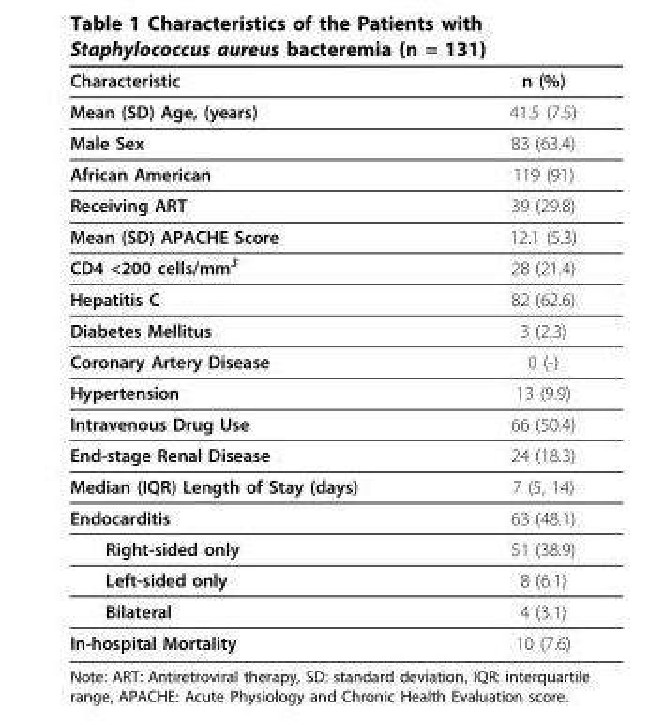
<table><thead><tr><td>Characteristic</td><td>n (%)</td></tr></thead><tbody><tr><td>Mean (SD) Age, (years)</td><td>41.5 (7.5)</td></tr><tr><td>Male Sex</td><td>83 (63.4)</td></tr><tr><td>African American</td><td>119 (91)</td></tr><tr><td>Receiving ART</td><td>39 (29.8)</td></tr><tr><td>Mean (SD) APACHE Score</td><td>12.1 (5.3)</td></tr><tr><td>CD4 &lt;200 cells/mm<sup>3</sup></td><td>28 (21.4)</td></tr><tr><td>Hepatitis C</td><td>82 (62.6)</td></tr><tr><td>Diabetes Mellitus</td><td>3 (2.3)</td></tr><tr><td>Coronary Artery Disease</td><td>0 (-)</td></tr><tr><td>Hypertension</td><td>13 (9.9)</td></tr><tr><td>Intravenous Drug Use</td><td>66 (50.4)</td></tr><tr><td>End-stage Renal Disease</td><td>24 (18.3)</td></tr><tr><td>Median (IQR) Length of Stay (days)</td><td>7 (5, 14)</td></tr><tr><td>Endocarditis</td><td>63 (48.1)</td></tr><tr><td>Right-sided only</td><td>51 (38.9)</td></tr><tr><td>Left-sided only</td><td>8 (6.1)</td></tr><tr><td>Bilateral</td><td>4 (3.1)</td></tr><tr><td>In-hospital Mortality</td><td>10 (7.6)</td></tr></tbody></table>